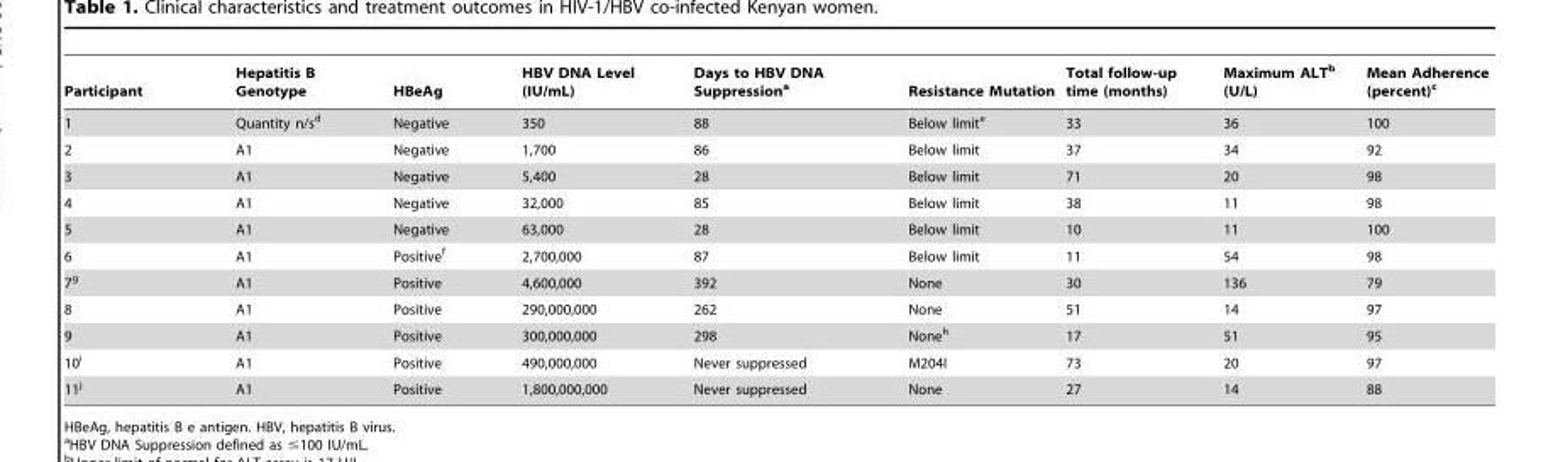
<table><thead><tr><td>Participant</td><td>Hepatitis B Genotype</td><td>HBeAg</td><td>HBV DNA Level (IU/mL)</td><td>Days to HBV DNA Suppression<sup>a</sup></td><td>Resistance Mutation</td><td>Total follow-up time (months)</td><td>Maximum ALT<sup>b</sup> (U/L)</td><td>Mean Adherence (percent)<sup>c</sup></td></tr></thead><tbody><tr><td>1</td><td>Quantity n/s<sup>d</sup></td><td>Negative</td><td>350</td><td>88</td><td>Below limit<sup>e</sup></td><td>33</td><td>36</td><td>100</td></tr><tr><td>2</td><td>A1</td><td>Negative</td><td>1,700</td><td>86</td><td>Below limit</td><td>37</td><td>34</td><td>92</td></tr><tr><td>3</td><td>A1</td><td>Negative</td><td>5,400</td><td>28</td><td>Below limit</td><td>71</td><td>20</td><td>98</td></tr><tr><td>4</td><td>A1</td><td>Negative</td><td>32,000</td><td>85</td><td>Below limit</td><td>38</td><td>11</td><td>98</td></tr><tr><td>5</td><td>A1</td><td>Negative</td><td>63,000</td><td>28</td><td>Below limit</td><td>10</td><td>11</td><td>100</td></tr><tr><td>6</td><td>A1</td><td>Positive<sup>f</sup></td><td>2,700,000</td><td>87</td><td>Below limit</td><td>11</td><td>54</td><td>98</td></tr><tr><td>7<sup>g</sup></td><td>A1</td><td>Positive</td><td>4,600,000</td><td>392</td><td>None</td><td>30</td><td>136</td><td>79</td></tr><tr><td>8</td><td>A1</td><td>Positive</td><td>290,000,000</td><td>262</td><td>None</td><td>51</td><td>14</td><td>97</td></tr><tr><td>9</td><td>A1</td><td>Positive</td><td>300,000,000</td><td>298</td><td>None<sup>h</sup></td><td>17</td><td>51</td><td>95</td></tr><tr><td>10<sup>i</sup></td><td>A1</td><td>Positive</td><td>490,000,000</td><td>Never suppressed</td><td>M204I</td><td>73</td><td>20</td><td>97</td></tr><tr><td>11<sup>j</sup></td><td>A1</td><td>Positive</td><td>1,800,000,000</td><td>Never suppressed</td><td>None</td><td>27</td><td>14</td><td>88</td></tr></tbody></table>